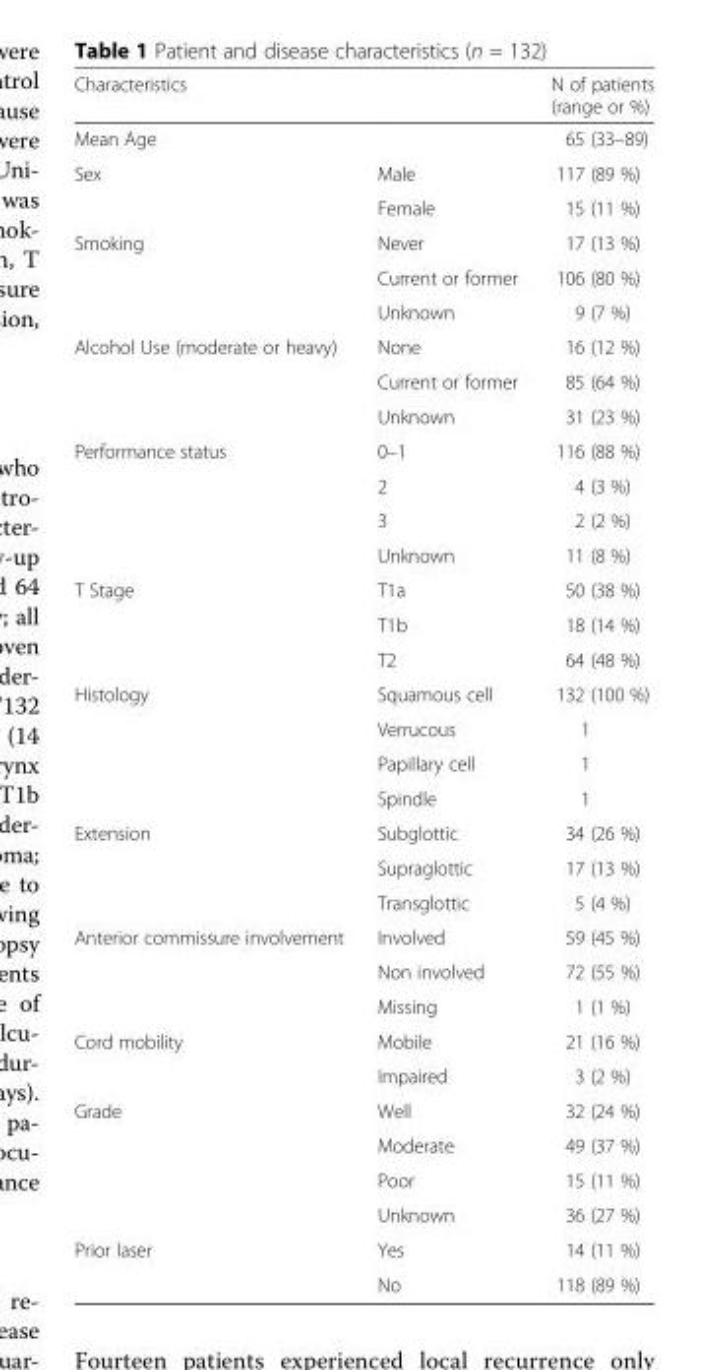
<table><thead><tr><td>Characteristics</td><td></td><td>N of patients (range or %)</td></tr></thead><tbody><tr><td>Mean Age</td><td></td><td>65 (33–89)</td></tr><tr><td rowspan="2">Sex</td><td>Male</td><td>117 (89 %)</td></tr><tr><td>Female</td><td>15 (11 %)</td></tr><tr><td rowspan="3">Smoking</td><td>Never</td><td>17 (13 %)</td></tr><tr><td>Current or former</td><td>106 (80 %)</td></tr><tr><td>Unknown</td><td>9 (7 %)</td></tr><tr><td rowspan="3">Alcohol Use (moderate or heavy)</td><td>None</td><td>16 (12 %)</td></tr><tr><td>Current or former</td><td>85 (64 %)</td></tr><tr><td>Unknown</td><td>31 (23 %)</td></tr><tr><td rowspan="4">Performance status</td><td>0–1</td><td>116 (88 %)</td></tr><tr><td>2</td><td>4 (3 %)</td></tr><tr><td>3</td><td>2 (2 %)</td></tr><tr><td>Unknown</td><td>11 (8 %)</td></tr><tr><td rowspan="3">T Stage</td><td>T1a</td><td>50 (38 %)</td></tr><tr><td>T1b</td><td>18 (14 %)</td></tr><tr><td>T2</td><td>64 (48 %)</td></tr><tr><td rowspan="4">Histology</td><td>Squamous cell</td><td>132 (100 %)</td></tr><tr><td>Verrucous</td><td>1</td></tr><tr><td>Papillary cell</td><td>1</td></tr><tr><td>Spindle</td><td>1</td></tr><tr><td rowspan="3">Extension</td><td>Subglottic</td><td>34 (26 %)</td></tr><tr><td>Supraglottic</td><td>17 (13 %)</td></tr><tr><td>Transglottic</td><td>5 (4 %)</td></tr><tr><td rowspan="3">Anterior commissure involvement</td><td>Involved</td><td>59 (45 %)</td></tr><tr><td>Non involved</td><td>72 (55 %)</td></tr><tr><td>Missing</td><td>1 (1 %)</td></tr><tr><td rowspan="2">Cord mobility</td><td>Mobile</td><td>21 (16 %)</td></tr><tr><td>Impaired</td><td>3 (2 %)</td></tr><tr><td rowspan="4">Grade</td><td>Well</td><td>32 (24 %)</td></tr><tr><td>Moderate</td><td>49 (37 %)</td></tr><tr><td>Poor</td><td>15 (11 %)</td></tr><tr><td>Unknown</td><td>36 (27 %)</td></tr><tr><td rowspan="2">Prior laser</td><td>Yes</td><td>14 (11 %)</td></tr><tr><td>No</td><td>118 (89 %)</td></tr></tbody></table>